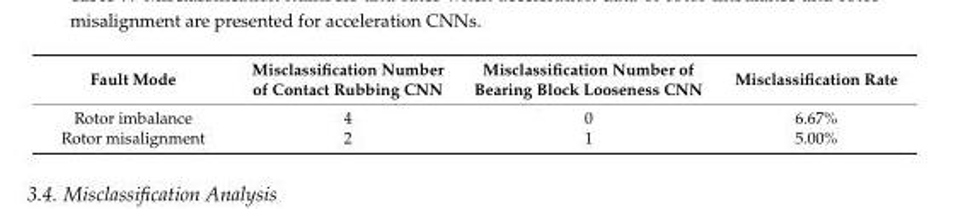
<table><thead><tr><td>Fault Mode</td><td>Misclassification Number of Contact Rubbing CNN</td><td>Misclassification Number of Bearing Block Looseness CNN</td><td>Misclassification Rate</td></tr></thead><tbody><tr><td>Rotor imbalance</td><td>4</td><td>0</td><td>6.67%</td></tr><tr><td>Rotor misalignment</td><td>2</td><td>1</td><td>5.00%</td></tr></tbody></table>